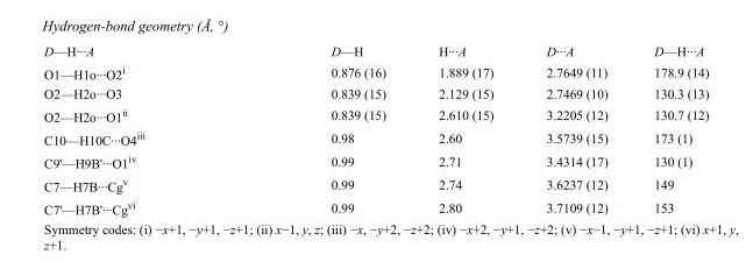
<table><tbody><tr><td>D—H···A</td><td>D—H</td><td>H···A</td><td>D···A</td><td>D—H···A</td></tr><tr><td>O1—H1o···O2<sup>i</sup></td><td>0.876 (16)</td><td>1.889 (17)</td><td>2.7649 (11)</td><td>178.9 (14)</td></tr><tr><td>O2—H2o···O3</td><td>0.839 (15)</td><td>2.129 (15)</td><td>2.7469 (10)</td><td>130.3 (13)</td></tr><tr><td>O2—H2o···O1<sup>ii</sup></td><td>0.839 (15)</td><td>2.610 (15)</td><td>3.2205 (12)</td><td>130.7 (12)</td></tr><tr><td>C10—H10C···O4<sup>iii</sup></td><td>0.98</td><td>2.60</td><td>3.5739 (15)</td><td>173 (1)</td></tr><tr><td>C9&#x27;—H9B&#x27;···O1<sup>iv</sup></td><td>0.99</td><td>2.71</td><td>3.4314 (17)</td><td>130 (1)</td></tr><tr><td>C7—H7B···Cg<sup>v</sup></td><td>0.99</td><td>2.74</td><td>3.6237 (12)</td><td>149</td></tr><tr><td>C7&#x27;—H7B&#x27;···Cg<sup>vi</sup></td><td>0.99</td><td>2.80</td><td>3.7109 (12)</td><td>153</td></tr></tbody></table>